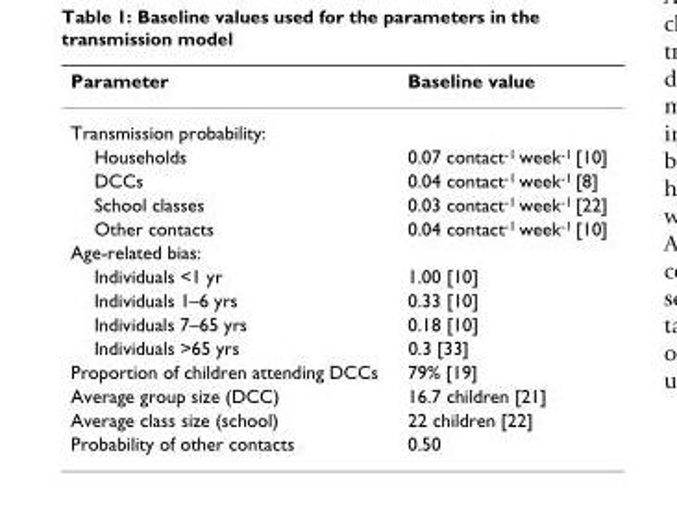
<table><thead><tr><td>Parameter</td><td>Baseline value</td></tr></thead><tbody><tr><td colspan="2">Transmission probability:</td></tr><tr><td>Households</td><td>0.07 contact<sup>-1</sup> week<sup>-1</sup> [10]</td></tr><tr><td>DCCs</td><td>0.04 contact<sup>-1</sup> week<sup>-1</sup> [8]</td></tr><tr><td>School classes</td><td>0.03 contact<sup>-1</sup> week<sup>-1</sup> [22]</td></tr><tr><td>Other contacts</td><td>0.04 contact<sup>-1</sup> week<sup>-1</sup> [10]</td></tr><tr><td colspan="2">Age-related bias:</td></tr><tr><td>Individuals &lt;1 yr</td><td>1.00 [10]</td></tr><tr><td>Individuals 1–6 yrs</td><td>0.33 [10]</td></tr><tr><td>Individuals 7–65 yrs</td><td>0.18 [10]</td></tr><tr><td>Individuals &gt;65 yrs</td><td>0.3 [33]</td></tr><tr><td>Proportion of children attending DCCs</td><td>79% [19]</td></tr><tr><td>Average group size (DCC)</td><td>16.7 children [21]</td></tr><tr><td>Average class size (school)</td><td>22 children [22]</td></tr><tr><td>Probability of other contacts</td><td>0.50</td></tr></tbody></table>